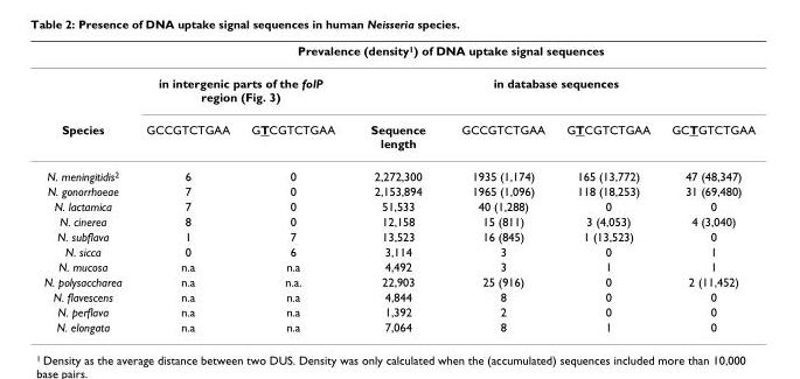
<table><thead><tr><td rowspan="3">Species</td><td colspan="6">Prevalence (density1) of DNA uptake signal sequences</td></tr><tr><td colspan="2">in intergenic parts of the folP region (Fig. 3)</td><td colspan="4">in database sequences</td></tr><tr><td>GCCGTCTGAA</td><td>GTCGTCTGAA</td><td>Sequence length</td><td>GCCGTCTGAA</td><td>GTCGTCTGAA</td><td>GCTGTCTGAA</td></tr></thead><tbody><tr><td>N. meningitidis2</td><td>6</td><td>0</td><td>2,272,300</td><td>1935 (1,174)</td><td>165 (13,772)</td><td>47 (48,347)</td></tr><tr><td>N. gonorrhoeae</td><td>7</td><td>0</td><td>2,153,894</td><td>1965 (1,096)</td><td>118 (18,253)</td><td>31 (69,480)</td></tr><tr><td>N. lactamica</td><td>7</td><td>0</td><td>51,533</td><td>40 (1,288)</td><td>0</td><td>0</td></tr><tr><td>N. cinerea</td><td>8</td><td>0</td><td>12,158</td><td>15 (811)</td><td>3 (4,053)</td><td>4 (3,040)</td></tr><tr><td>N. subflava</td><td>1</td><td>7</td><td>13,523</td><td>16 (845)</td><td>1 (13,523)</td><td>0</td></tr><tr><td>N. sicca</td><td>0</td><td>6</td><td>3,114</td><td>3</td><td>0</td><td>1</td></tr><tr><td>N. mucosa</td><td>n.a</td><td>n.a</td><td>4,492</td><td>3</td><td>1</td><td>1</td></tr><tr><td>N. polysaccharea</td><td>n.a</td><td>n.a.</td><td>22,903</td><td>25 (916)</td><td>0</td><td>2 (11,452)</td></tr><tr><td>N. flavescens</td><td>n.a</td><td>n.a</td><td>4,844</td><td>8</td><td>0</td><td>0</td></tr><tr><td>N. perflava</td><td>n.a</td><td>n.a</td><td>1,392</td><td>2</td><td>0</td><td>0</td></tr><tr><td>N. elongata</td><td>n.a</td><td>n.a</td><td>7,064</td><td>8</td><td>1</td><td>0</td></tr></tbody></table>